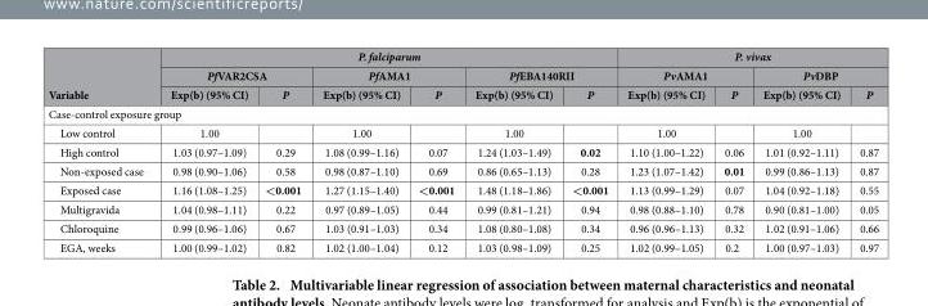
<table><thead><tr><td rowspan="3">Variable</td><td colspan="6">P. falciparum</td><td colspan="4">P. vivax</td></tr><tr><td colspan="2">PfVAR2CSA</td><td colspan="2">PfAMA1</td><td colspan="2">PfEBA140RII</td><td colspan="2">PvAMA1</td><td colspan="2">PvDBP</td></tr><tr><td>Exp(b) (95% CI)</td><td>P</td><td>Exp(b) (95% CI)</td><td>P</td><td>Exp(b) (95% CI)</td><td>P</td><td>Exp(b) (95% CI)</td><td>P</td><td>Exp(b) (95% CI)</td><td>P</td></tr></thead><tbody><tr><td colspan="11">Case-control exposure group</td></tr><tr><td>Low control</td><td>1.00</td><td></td><td>1.00</td><td></td><td>1.00</td><td></td><td>1.00</td><td></td><td>1.00</td><td></td></tr><tr><td>High control</td><td>1.03 (0.97–1.09)</td><td>0.29</td><td>1.08 (0.99–1.16)</td><td>0.07</td><td>1.24 (1.03–1.49)</td><td>0.02</td><td>1.10 (1.00–1.22)</td><td>0.06</td><td>1.01 (0.92–1.11)</td><td>0.87</td></tr><tr><td>Non-exposed case</td><td>0.98 (0.90–1.06)</td><td>0.58</td><td>0.98 (0.87–1.10)</td><td>0.69</td><td>0.86 (0.65–1.13)</td><td>0.28</td><td>1.23 (1.07–1.42)</td><td>0.01</td><td>0.99 (0.86–1.13)</td><td>0.87</td></tr><tr><td>Exposed case</td><td>1.16 (1.08–1.25)</td><td>&lt;0.001</td><td>1.27 (1.15–1.40)</td><td>&lt;0.001</td><td>1.48 (1.18–1.86)</td><td>&lt;0.001</td><td>1.13 (0.99–1.29)</td><td>0.07</td><td>1.04 (0.92–1.18)</td><td>0.55</td></tr><tr><td>Multigravida</td><td>1.04 (0.98–1.11)</td><td>0.22</td><td>0.97 (0.89–1.05)</td><td>0.44</td><td>0.99 (0.81–1.21)</td><td>0.94</td><td>0.98 (0.88–1.10)</td><td>0.78</td><td>0.90 (0.81–1.00)</td><td>0.05</td></tr><tr><td>Chloroquine</td><td>0.99 (0.96–1.06)</td><td>0.67</td><td>1.03 (0.91–1.03)</td><td>0.34</td><td>1.08 (0.80–1.08)</td><td>0.34</td><td>0.96 (0.96–1.13)</td><td>0.32</td><td>1.02 (0.91–1.06)</td><td>0.66</td></tr><tr><td>EGA, weeks</td><td>1.00 (0.99–1.02)</td><td>0.82</td><td>1.02 (1.00–1.04)</td><td>0.12</td><td>1.03 (0.98–1.09)</td><td>0.25</td><td>1.02 (0.99–1.05)</td><td>0.2</td><td>1.00 (0.97–1.03)</td><td>0.97</td></tr></tbody></table>